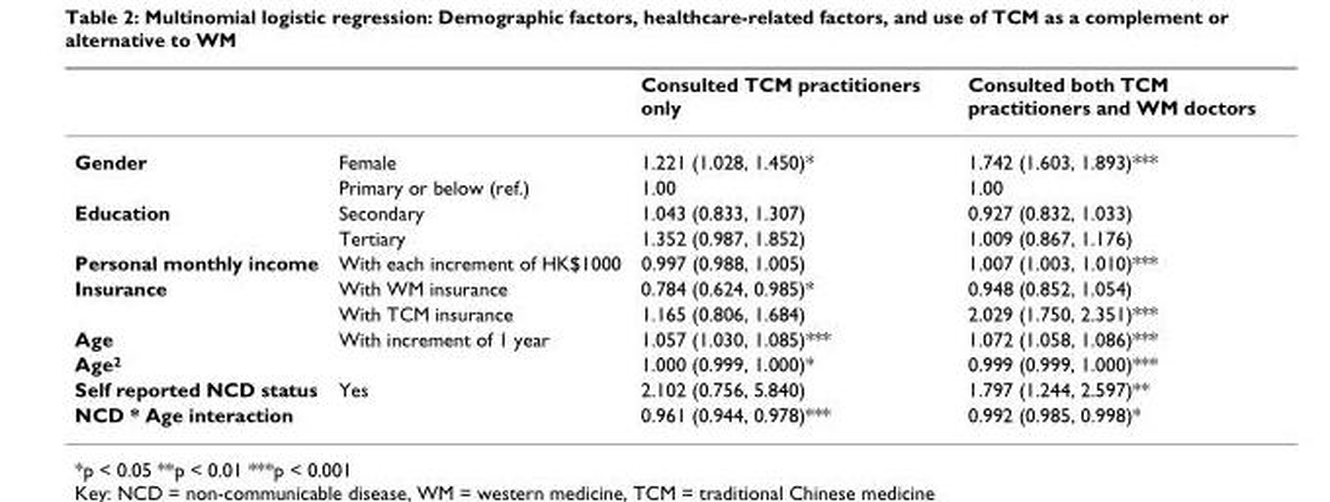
<table><thead><tr><td></td><td></td><td>Consulted TCM practitioners only</td><td>Consulted both TCM practitioners and WM doctors</td></tr></thead><tbody><tr><td rowspan="2">Gender</td><td>Female</td><td>1.221 (1.028, 1.450)*</td><td>1.742 (1.603, 1.893)***</td></tr><tr><td>Primary or below (ref.)</td><td>1.00</td><td>1.00</td></tr><tr><td rowspan="2">Education</td><td>Secondary</td><td>1.043 (0.833, 1.307)</td><td>0.927 (0.832, 1.033)</td></tr><tr><td>Tertiary</td><td>1.352 (0.987, 1.852)</td><td>1.009 (0.867, 1.176)</td></tr><tr><td>Personal monthly income</td><td>With each increment of HK$1000</td><td>0.997 (0.988, 1.005)</td><td>1.007 (1.003, 1.010)***</td></tr><tr><td rowspan="2">Insurance</td><td>With WM insurance</td><td>0.784 (0.624, 0.985)*</td><td>0.948 (0.852, 1.054)</td></tr><tr><td>With TCM insurance</td><td>1.165 (0.806, 1.684)</td><td>2.029 (1.750, 2.351)***</td></tr><tr><td>Age</td><td>With increment of 1 year</td><td>1.057 (1.030, 1.085)***</td><td>1.072 (1.058, 1.086)***</td></tr><tr><td>Age<sup>2</sup></td><td></td><td>1.000 (0.999, 1.000)*</td><td>0.999 (0.999, 1.000)***</td></tr><tr><td>Self reported NCD status</td><td>Yes</td><td>2.102 (0.756, 5.840)</td><td>1.797 (1.244, 2.597)**</td></tr><tr><td>NCD * Age interaction</td><td></td><td>0.961 (0.944, 0.978)***</td><td>0.992 (0.985, 0.998)*</td></tr></tbody></table>